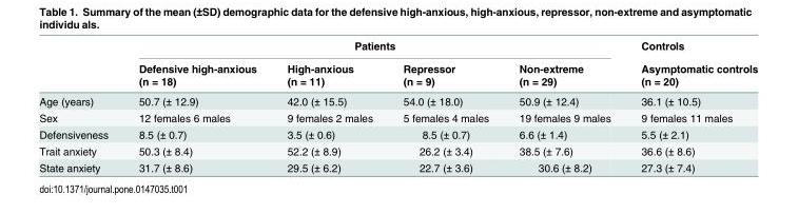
<table><thead><tr><td rowspan="2"></td><td colspan="4">Patients</td><td rowspan="2">Controls Asymptomatic controls (n = 20)</td></tr><tr><td>Defensive high-anxious (n = 18)</td><td>High-anxious (n = 11)</td><td>Repressor (n = 9)</td><td>Non-extreme (n = 29)</td></tr></thead><tbody><tr><td>Age (years)</td><td>50.7 (± 12.9)</td><td>42.0 (± 15.5)</td><td>54.0 (± 18.0)</td><td>50.9 (± 12.4)</td><td>36.1 (± 10.5)</td></tr><tr><td>Sex</td><td>12 females 6 males</td><td>9 females 2 males</td><td>5 females 4 males</td><td>19 females 9 males</td><td>9 females 11 males</td></tr><tr><td>Defensiveness</td><td>8.5 (± 0.7)</td><td>3.5 (± 0.6)</td><td>8.5 (± 0.7)</td><td>6.6 (± 1.4)</td><td>5.5 (± 2.1)</td></tr><tr><td>Trait anxiety</td><td>50.3 (± 8.4)</td><td>52.2 (± 8.9)</td><td>26.2 (± 3.4)</td><td>38.5 (± 7.6)</td><td>36.6 (± 8.6)</td></tr><tr><td>State anxiety</td><td>31.7 (± 8.6)</td><td>29.5 (± 6.2)</td><td>22.7 (± 3.6)</td><td>30.6 (± 8.2)</td><td>27.3 (± 7.4)</td></tr></tbody></table>